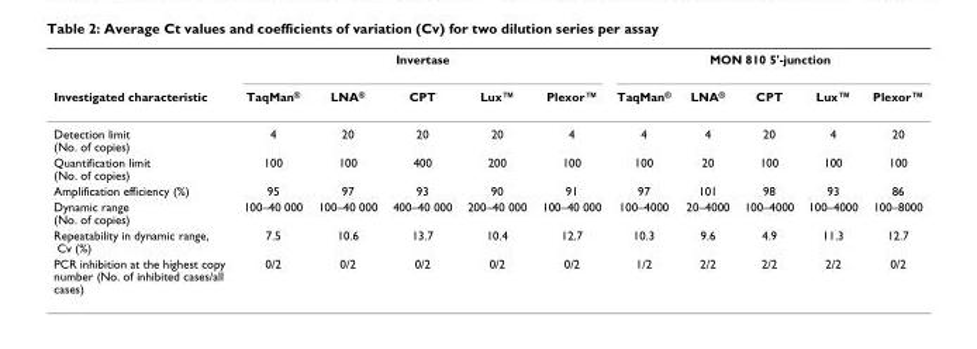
<table><thead><tr><td rowspan="2">Investigated characteristic</td><td colspan="5">Invertase</td><td colspan="5">MON 810 5&#x27;-junction</td></tr><tr><td>TaqMan<sup>®</sup></td><td>LNA<sup>®</sup></td><td>CPT</td><td>Lux™</td><td>Plexor™</td><td>TaqMan<sup>®</sup></td><td>LNA<sup>®</sup></td><td>CPT</td><td>Lux™</td><td>Plexor™</td></tr></thead><tbody><tr><td>Detection limit (No. of copies)</td><td>4</td><td>20</td><td>20</td><td>20</td><td>4</td><td>4</td><td>4</td><td>20</td><td>4</td><td>20</td></tr><tr><td>Quantification limit (No. of copies)</td><td>100</td><td>100</td><td>400</td><td>200</td><td>100</td><td>100</td><td>20</td><td>100</td><td>100</td><td>100</td></tr><tr><td>Amplification efficiency (%)</td><td>95</td><td>97</td><td>93</td><td>90</td><td>91</td><td>97</td><td>101</td><td>98</td><td>93</td><td>86</td></tr><tr><td>Dynamic range (No. of copies)</td><td>100–40 000</td><td>100–40 000</td><td>400–40 000</td><td>200–40 000</td><td>100–40 000</td><td>100–4000</td><td>20–4000</td><td>100–4000</td><td>100–4000</td><td>100–8000</td></tr><tr><td>Repeatability in dynamic range, Cv (%)</td><td>7.5</td><td>10.6</td><td>13.7</td><td>10.4</td><td>12.7</td><td>10.3</td><td>9.6</td><td>4.9</td><td>11.3</td><td>12.7</td></tr><tr><td>PCR inhibition at the highest copy number (No. of inhibited cases/all cases)</td><td>0/2</td><td>0/2</td><td>0/2</td><td>0/2</td><td>0/2</td><td>1/2</td><td>2/2</td><td>2/2</td><td>2/2</td><td>0/2</td></tr></tbody></table>